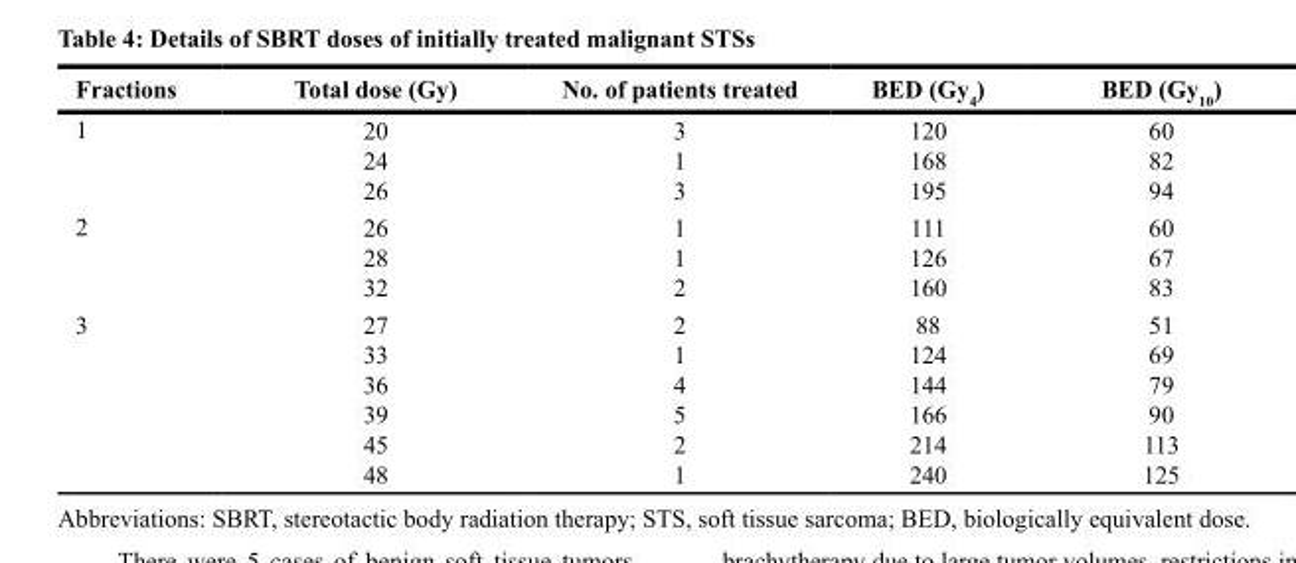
<table><thead><tr><td>Fractions</td><td>Total dose (Gy)</td><td>No. of patients treated</td><td>BED (Gy<sub>4</sub>)</td><td>BED (Gy<sub>10</sub>)</td></tr></thead><tbody><tr><td>1</td><td>20 24 26</td><td>3 1 3</td><td>120 168 195</td><td>60 82 94</td></tr><tr><td>2</td><td>26 28 32</td><td>1 1 2</td><td>111 126 160</td><td>60 67 83</td></tr><tr><td>3</td><td>27 33 36 39 45 48</td><td>2 1 4 5 2 1</td><td>88 124 144 166 214 240</td><td>51 69 79 90 113 125</td></tr></tbody></table>